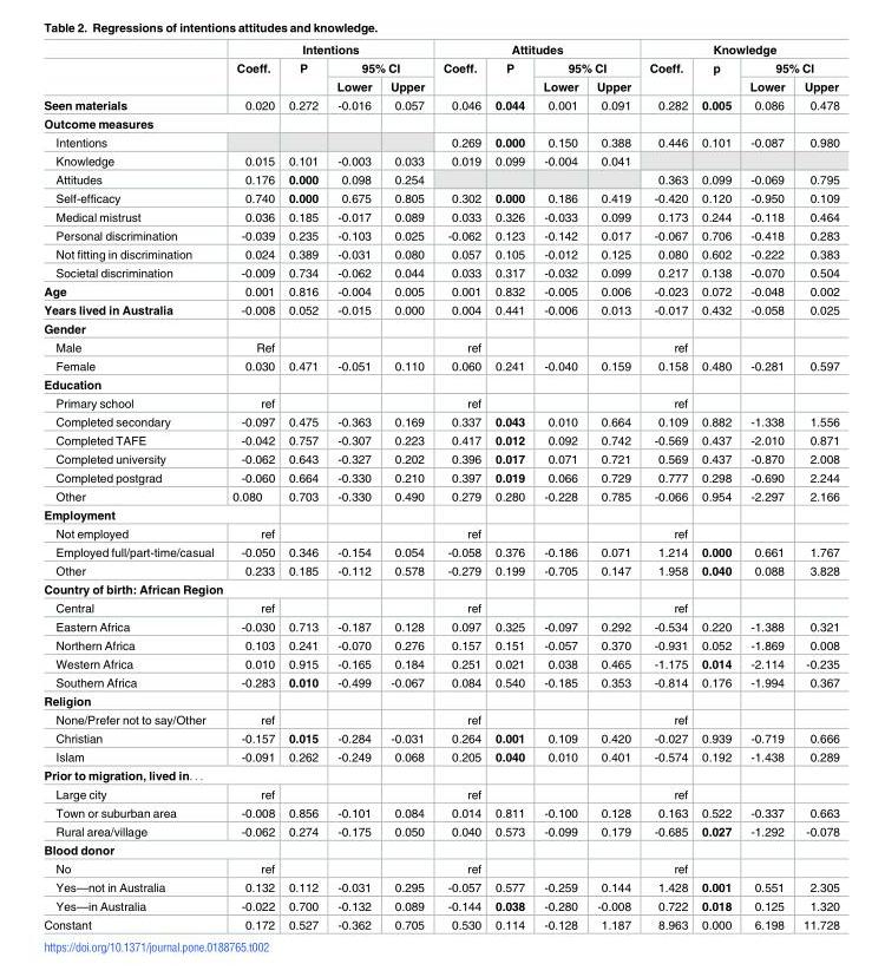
<table><thead><tr><td rowspan="3"></td><td colspan="4">Intentions</td><td colspan="4">Attitudes</td><td colspan="4">Knowledge</td></tr><tr><td rowspan="2">Coeff.</td><td rowspan="2">P</td><td colspan="2">95% CI</td><td rowspan="2">Coeff.</td><td rowspan="2">P</td><td colspan="2">95% CI</td><td rowspan="2">Coeff.</td><td rowspan="2">p</td><td colspan="2">95% CI</td></tr><tr><td>Lower</td><td>Upper</td><td>Lower</td><td>Upper</td><td>Lower</td><td>Upper</td></tr></thead><tbody><tr><td>Seen materials</td><td>0.020</td><td>0.272</td><td>-0.016</td><td>0.057</td><td>0.046</td><td>0.044</td><td>0.001</td><td>0.091</td><td>0.282</td><td>0.005</td><td>0.086</td><td>0.478</td></tr><tr><td colspan="13">Outcome measures</td></tr><tr><td>Intentions</td><td></td><td></td><td></td><td></td><td>0.269</td><td>0.000</td><td>0.150</td><td>0.388</td><td>0.446</td><td>0.101</td><td>-0.087</td><td>0.980</td></tr><tr><td>Knowledge</td><td>0.015</td><td>0.101</td><td>-0.003</td><td>0.033</td><td>0.019</td><td>0.099</td><td>-0.004</td><td>0.041</td><td></td><td></td><td></td><td></td></tr><tr><td>Attitudes</td><td>0.176</td><td>0.000</td><td>0.098</td><td>0.254</td><td></td><td></td><td></td><td></td><td>0.363</td><td>0.099</td><td>-0.069</td><td>0.795</td></tr><tr><td>Self-efficacy</td><td>0.740</td><td>0.000</td><td>0.675</td><td>0.805</td><td>0.302</td><td>0.000</td><td>0.186</td><td>0.419</td><td>-0.420</td><td>0.120</td><td>-0.950</td><td>0.109</td></tr><tr><td>Medical mistrust</td><td>0.036</td><td>0.185</td><td>-0.017</td><td>0.089</td><td>0.033</td><td>0.326</td><td>-0.033</td><td>0.099</td><td>0.173</td><td>0.244</td><td>-0.118</td><td>0.464</td></tr><tr><td>Personal discrimination</td><td>-0.039</td><td>0.235</td><td>-0.103</td><td>0.025</td><td>-0.062</td><td>0.123</td><td>-0.142</td><td>0.017</td><td>-0.067</td><td>0.706</td><td>-0.418</td><td>0.283</td></tr><tr><td>Not fitting in discrimination</td><td>0.024</td><td>0.389</td><td>-0.031</td><td>0.080</td><td>0.057</td><td>0.105</td><td>-0.012</td><td>0.125</td><td>0.080</td><td>0.602</td><td>-0.222</td><td>0.383</td></tr><tr><td>Societal discrimination</td><td>-0.009</td><td>0.734</td><td>-0.062</td><td>0.044</td><td>0.033</td><td>0.317</td><td>-0.032</td><td>0.099</td><td>0.217</td><td>0.138</td><td>-0.070</td><td>0.504</td></tr><tr><td>Age</td><td>0.001</td><td>0.816</td><td>-0.004</td><td>0.005</td><td>0.001</td><td>0.832</td><td>-0.005</td><td>0.006</td><td>-0.023</td><td>0.072</td><td>-0.048</td><td>0.002</td></tr><tr><td>Years lived in Australia</td><td>-0.008</td><td>0.052</td><td>-0.015</td><td>0.000</td><td>0.004</td><td>0.441</td><td>-0.006</td><td>0.013</td><td>-0.017</td><td>0.432</td><td>-0.058</td><td>0.025</td></tr><tr><td colspan="13">Gender</td></tr><tr><td>Male</td><td>Ref</td><td></td><td></td><td></td><td>ref</td><td></td><td></td><td></td><td>ref</td><td></td><td></td><td></td></tr><tr><td>Female</td><td>0.030</td><td>0.471</td><td>-0.051</td><td>0.110</td><td>0.060</td><td>0.241</td><td>-0.040</td><td>0.159</td><td>0.158</td><td>0.480</td><td>-0.281</td><td>0.597</td></tr><tr><td colspan="13">Education</td></tr><tr><td>Primary school</td><td>ref</td><td></td><td></td><td></td><td>ref</td><td></td><td></td><td></td><td>ref</td><td></td><td></td><td></td></tr><tr><td>Completed secondary</td><td>-0.097</td><td>0.475</td><td>-0.363</td><td>0.169</td><td>0.337</td><td>0.043</td><td>0.010</td><td>0.664</td><td>0.109</td><td>0.882</td><td>-1.338</td><td>1.556</td></tr><tr><td>Completed TAFE</td><td>-0.042</td><td>0.757</td><td>-0.307</td><td>0.223</td><td>0.417</td><td>0.012</td><td>0.092</td><td>0.742</td><td>-0.569</td><td>0.437</td><td>-2.010</td><td>0.871</td></tr><tr><td>Completed university</td><td>-0.062</td><td>0.643</td><td>-0.327</td><td>0.202</td><td>0.396</td><td>0.017</td><td>0.071</td><td>0.721</td><td>0.569</td><td>0.437</td><td>-0.870</td><td>2.008</td></tr><tr><td>Completed postgrad</td><td>-0.060</td><td>0.664</td><td>-0.330</td><td>0.210</td><td>0.397</td><td>0.019</td><td>0.066</td><td>0.729</td><td>0.777</td><td>0.298</td><td>-0.690</td><td>2.244</td></tr><tr><td>Other</td><td>0.080</td><td>0.703</td><td>-0.330</td><td>0.490</td><td>0.279</td><td>0.280</td><td>-0.228</td><td>0.785</td><td>-0.066</td><td>0.954</td><td>-2.297</td><td>2.166</td></tr><tr><td colspan="13">Employment</td></tr><tr><td>Not employed</td><td>ref</td><td></td><td></td><td></td><td>ref</td><td></td><td></td><td></td><td>ref</td><td></td><td></td><td></td></tr><tr><td>Employed full/part-time/casual</td><td>-0.050</td><td>0.346</td><td>-0.154</td><td>0.054</td><td>-0.058</td><td>0.376</td><td>-0.186</td><td>0.071</td><td>1.214</td><td>0.000</td><td>0.661</td><td>1.767</td></tr><tr><td>Other</td><td>0.233</td><td>0.185</td><td>-0.112</td><td>0.578</td><td>-0.279</td><td>0.199</td><td>-0.705</td><td>0.147</td><td>1.958</td><td>0.040</td><td>0.088</td><td>3.828</td></tr><tr><td colspan="13">Country of birth: African Region</td></tr><tr><td>Central</td><td>ref</td><td></td><td></td><td></td><td>ref</td><td></td><td></td><td></td><td>ref</td><td></td><td></td><td></td></tr><tr><td>Eastern Africa</td><td>-0.030</td><td>0.713</td><td>-0.187</td><td>0.128</td><td>0.097</td><td>0.325</td><td>-0.097</td><td>0.292</td><td>-0.534</td><td>0.220</td><td>-1.388</td><td>0.321</td></tr><tr><td>Northern Africa</td><td>0.103</td><td>0.241</td><td>-0.070</td><td>0.276</td><td>0.157</td><td>0.151</td><td>-0.057</td><td>0.370</td><td>-0.931</td><td>0.052</td><td>-1.869</td><td>0.008</td></tr><tr><td>Western Africa</td><td>0.010</td><td>0.915</td><td>-0.165</td><td>0.184</td><td>0.251</td><td>0.021</td><td>0.038</td><td>0.465</td><td>-1.175</td><td>0.014</td><td>-2.114</td><td>-0.235</td></tr><tr><td>Southern Africa</td><td>-0.283</td><td>0.010</td><td>-0.499</td><td>-0.067</td><td>0.084</td><td>0.540</td><td>-0.185</td><td>0.353</td><td>-0.814</td><td>0.176</td><td>-1.994</td><td>0.367</td></tr><tr><td colspan="13">Religion</td></tr><tr><td>None/Prefer not to say/Other</td><td>ref</td><td></td><td></td><td></td><td>ref</td><td></td><td></td><td></td><td>ref</td><td></td><td></td><td></td></tr><tr><td>Christian</td><td>-0.157</td><td>0.015</td><td>-0.284</td><td>-0.031</td><td>0.264</td><td>0.001</td><td>0.109</td><td>0.420</td><td>-0.027</td><td>0.939</td><td>-0.719</td><td>0.666</td></tr><tr><td>Islam</td><td>-0.091</td><td>0.262</td><td>-0.249</td><td>0.068</td><td>0.205</td><td>0.040</td><td>0.010</td><td>0.401</td><td>-0.574</td><td>0.192</td><td>-1.438</td><td>0.289</td></tr><tr><td colspan="13">Prior to migration, lived in. . .</td></tr><tr><td>Large city</td><td>ref</td><td></td><td></td><td></td><td>ref</td><td></td><td></td><td></td><td>ref</td><td></td><td></td><td></td></tr><tr><td>Town or suburban area</td><td>-0.008</td><td>0.856</td><td>-0.101</td><td>0.084</td><td>0.014</td><td>0.811</td><td>-0.100</td><td>0.128</td><td>0.163</td><td>0.522</td><td>-0.337</td><td>0.663</td></tr><tr><td>Rural area/village</td><td>-0.062</td><td>0.274</td><td>-0.175</td><td>0.050</td><td>0.040</td><td>0.573</td><td>-0.099</td><td>0.179</td><td>-0.685</td><td>0.027</td><td>-1.292</td><td>-0.078</td></tr><tr><td colspan="13">Blood donor</td></tr><tr><td>No</td><td>ref</td><td></td><td></td><td></td><td>ref</td><td></td><td></td><td></td><td>ref</td><td></td><td></td><td></td></tr><tr><td>Yes—not in Australia</td><td>0.132</td><td>0.112</td><td>-0.031</td><td>0.295</td><td>-0.057</td><td>0.577</td><td>-0.259</td><td>0.144</td><td>1.428</td><td>0.001</td><td>0.551</td><td>2.305</td></tr><tr><td>Yes—in Australia</td><td>-0.022</td><td>0.700</td><td>-0.132</td><td>0.089</td><td>-0.144</td><td>0.038</td><td>-0.280</td><td>-0.008</td><td>0.722</td><td>0.018</td><td>0.125</td><td>1.320</td></tr><tr><td>Constant</td><td>0.172</td><td>0.527</td><td>-0.362</td><td>0.705</td><td>0.530</td><td>0.114</td><td>-0.128</td><td>1.187</td><td>8.963</td><td>0.000</td><td>6.198</td><td>11.728</td></tr></tbody></table>